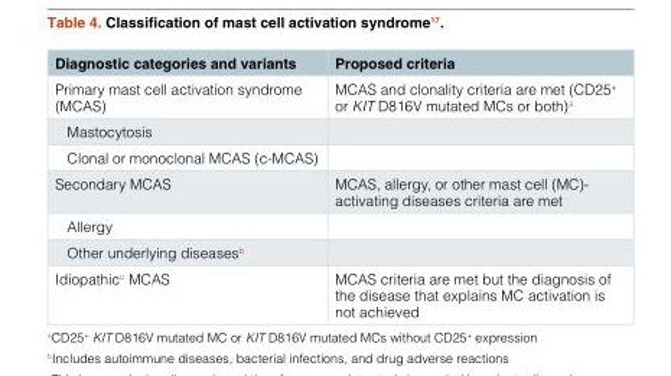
<table><thead><tr><td>Diagnostic categories and variants</td><td>Proposed criteria</td></tr></thead><tbody><tr><td>Primary mast cell activation syndrome (MCAS)</td><td>MCAS and clonality criteria are met (CD25<sup>+</sup> or KIT D816V mutated MCs or both)<sup>a</sup></td></tr><tr><td colspan="2">Mastocytosis</td></tr><tr><td colspan="2">Clonal or monoclonal MCAS (c-MCAS)</td></tr><tr><td>Secondary MCAS</td><td>MCAS, allergy, or other mast cell (MC)- activating diseases criteria are met</td></tr><tr><td colspan="2">Allergy</td></tr><tr><td colspan="2">Other underlying diseases<sup>b</sup></td></tr><tr><td>Idiopathic<sup>c</sup> MCAS</td><td>MCAS criteria are met but the diagnosis of the disease that explains MC activation is not achieved</td></tr></tbody></table>